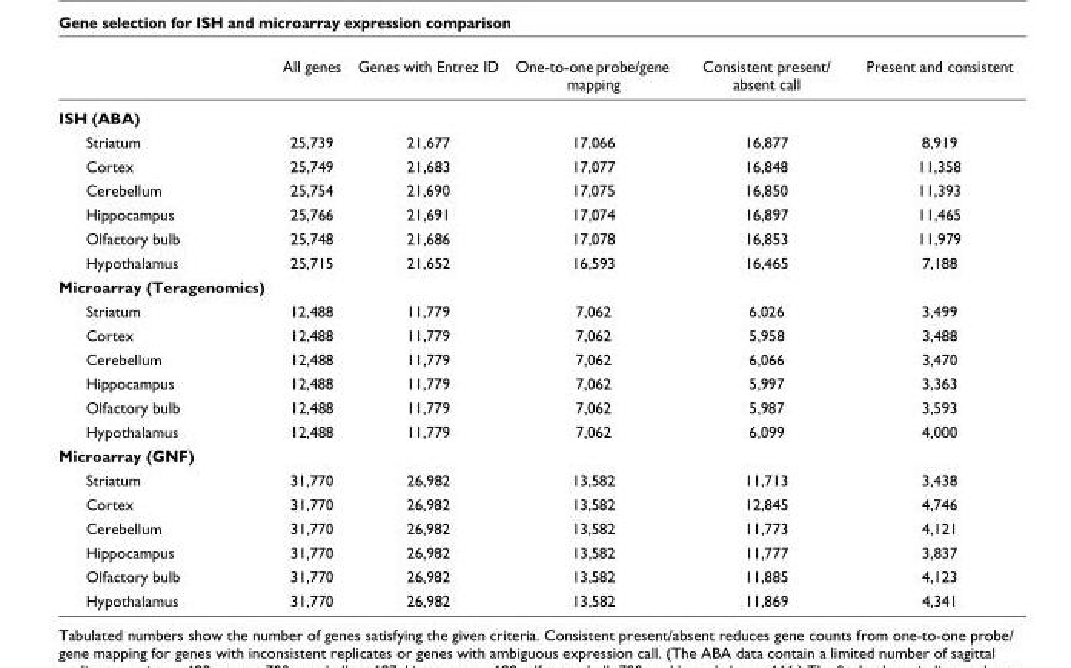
<table><thead><tr><td></td><td>All genes</td><td>Genes with Entrez ID</td><td>One-to-one probe/gene mapping</td><td>Consistent present/ absent call</td><td>Present and consistent</td></tr></thead><tbody><tr><td colspan="6">ISH (ABA)</td></tr><tr><td>Striatum</td><td>25,739</td><td>21,677</td><td>17,066</td><td>16,877</td><td>8,919</td></tr><tr><td>Cortex</td><td>25,749</td><td>21,683</td><td>17,077</td><td>16,848</td><td>11,358</td></tr><tr><td>Cerebellum</td><td>25,754</td><td>21,690</td><td>17,075</td><td>16,850</td><td>11,393</td></tr><tr><td>Hippocampus</td><td>25,766</td><td>21,691</td><td>17,074</td><td>16,897</td><td>11,465</td></tr><tr><td>Olfactory bulb</td><td>25,748</td><td>21,686</td><td>17,078</td><td>16,853</td><td>11,979</td></tr><tr><td>Hypothalamus</td><td>25,715</td><td>21,652</td><td>16,593</td><td>16,465</td><td>7,188</td></tr><tr><td colspan="6">Microarray (Teragenomics)</td></tr><tr><td>Striatum</td><td>12,488</td><td>11,779</td><td>7,062</td><td>6,026</td><td>3,499</td></tr><tr><td>Cortex</td><td>12,488</td><td>11,779</td><td>7,062</td><td>5,958</td><td>3,488</td></tr><tr><td>Cerebellum</td><td>12,488</td><td>11,779</td><td>7,062</td><td>6,066</td><td>3,470</td></tr><tr><td>Hippocampus</td><td>12,488</td><td>11,779</td><td>7,062</td><td>5,997</td><td>3,363</td></tr><tr><td>Olfactory bulb</td><td>12,488</td><td>11,779</td><td>7,062</td><td>5,987</td><td>3,593</td></tr><tr><td>Hypothalamus</td><td>12,488</td><td>11,779</td><td>7,062</td><td>6,099</td><td>4,000</td></tr><tr><td colspan="6">Microarray (GNF)</td></tr><tr><td>Striatum</td><td>31,770</td><td>26,982</td><td>13,582</td><td>11,713</td><td>3,438</td></tr><tr><td>Cortex</td><td>31,770</td><td>26,982</td><td>13,582</td><td>12,845</td><td>4,746</td></tr><tr><td>Cerebellum</td><td>31,770</td><td>26,982</td><td>13,582</td><td>11,773</td><td>4,121</td></tr><tr><td>Hippocampus</td><td>31,770</td><td>26,982</td><td>13,582</td><td>11,777</td><td>3,837</td></tr><tr><td>Olfactory bulb</td><td>31,770</td><td>26,982</td><td>13,582</td><td>11,885</td><td>4,123</td></tr><tr><td>Hypothalamus</td><td>31,770</td><td>26,982</td><td>13,582</td><td>11,869</td><td>4,341</td></tr></tbody></table>